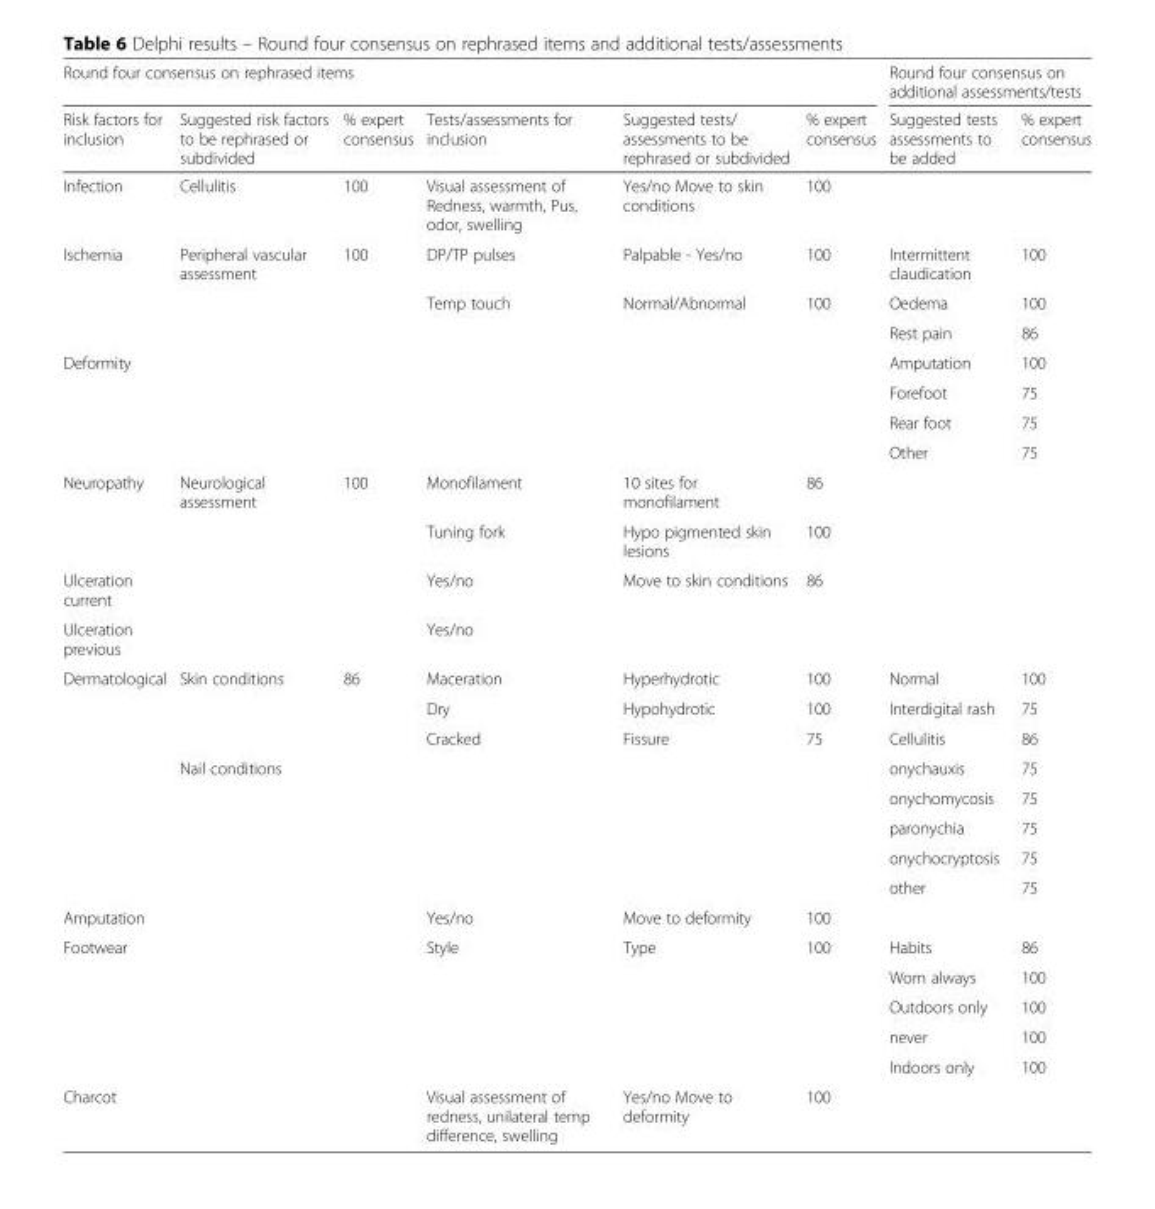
<table><thead><tr><td colspan="6">Round four consensus on rephrased items</td><td colspan="2">Round four consensus on additional assessments/tests</td></tr><tr><td>Risk factors for inclusion</td><td>Suggested risk factors to be rephrased or subdivided</td><td>% expert consensus</td><td>Tests/assessments for inclusion</td><td>Suggested tests/ assessments to be rephrased or subdivided</td><td>% expert consensus</td><td>Suggested tests assessments to be added</td><td>% expert consensus</td></tr></thead><tbody><tr><td>Infection</td><td>Cellulitis</td><td>100</td><td>Visual assessment of Redness, warmth, Pus, odor, swelling</td><td>Yes/no Move to skin conditions</td><td>100</td><td></td><td></td></tr><tr><td rowspan="3">Ischemia</td><td rowspan="3">Peripheral vascular assessment</td><td rowspan="3">100</td><td>DP/TP pulses</td><td>Palpable - Yes/no</td><td>100</td><td>Intermittent claudication</td><td>100</td></tr><tr><td rowspan="2">Temp touch</td><td rowspan="2">Normal/Abnormal</td><td rowspan="2">100</td><td>Oedema</td><td>100</td></tr><tr><td>Rest pain</td><td>86</td></tr><tr><td rowspan="4">Deformity</td><td rowspan="4" colspan="4"></td><td rowspan="4"></td><td>Amputation</td><td>100</td></tr><tr><td>Forefoot</td><td>75</td></tr><tr><td>Rear foot</td><td>75</td></tr><tr><td>Other</td><td>75</td></tr><tr><td rowspan="2">Neuropathy</td><td rowspan="2">Neurological assessment</td><td rowspan="2">100</td><td>Monofilament</td><td>10 sites for monofilament</td><td>86</td><td rowspan="4"></td><td rowspan="4"></td></tr><tr><td>Tuning fork</td><td>Hypo pigmented skin lesions</td><td>100</td></tr><tr><td>Ulceration current</td><td></td><td></td><td>Yes/no</td><td rowspan="2">Move to skin conditions</td><td rowspan="2">86</td></tr><tr><td>Ulceration previous</td><td></td><td></td><td>Yes/no</td></tr><tr><td rowspan="8">Dermatological</td><td rowspan="3">Skin conditions</td><td rowspan="3">86</td><td>Maceration</td><td>Hyperhydrotic</td><td>100</td><td>Normal</td><td>100</td></tr><tr><td>Dry</td><td>Hypohydrotic</td><td>100</td><td>Interdigital rash</td><td>75</td></tr><tr><td>Cracked</td><td>Fissure</td><td>75</td><td>Cellulitis</td><td>86</td></tr><tr><td rowspan="5">Nail conditions</td><td rowspan="5" colspan="4"></td><td>onychauxis</td><td>75</td></tr><tr><td>onychomycosis</td><td>75</td></tr><tr><td>paronychia</td><td>75</td></tr><tr><td>onychocryptosis</td><td>75</td></tr><tr><td>other</td><td>75</td></tr><tr><td>Amputation</td><td></td><td></td><td>Yes/no</td><td>Move to deformity</td><td>100</td><td></td><td></td></tr><tr><td rowspan="5">Footwear</td><td rowspan="5"></td><td rowspan="5"></td><td rowspan="5">Style</td><td rowspan="5">Type</td><td rowspan="5">100</td><td>Habits</td><td>86</td></tr><tr><td>Worn always</td><td>100</td></tr><tr><td>Outdoors only</td><td>100</td></tr><tr><td>never</td><td>100</td></tr><tr><td>Indoors only</td><td>100</td></tr><tr><td>Charcot</td><td></td><td></td><td>Visual assessment of redness, unilateral temp difference, swelling</td><td>Yes/no Move to deformity</td><td>100</td><td></td><td></td></tr></tbody></table>